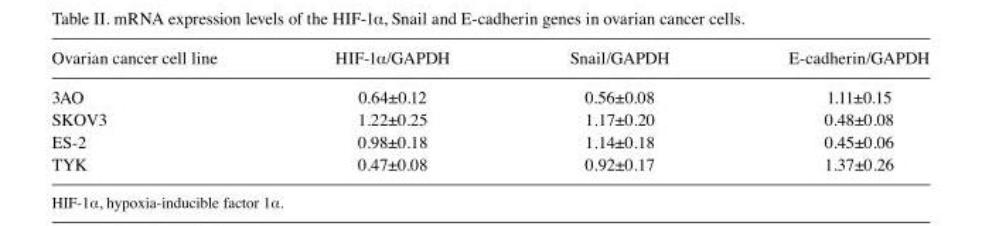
<table><thead><tr><td>Ovarian cancer cell line</td><td>HIF-1α/GAPDH</td><td>Snail/GAPDH</td><td>E-cadherin/GAPDH</td></tr></thead><tbody><tr><td>3AO</td><td>0.64±0.12</td><td>0.56±0.08</td><td>1.11±0.15</td></tr><tr><td>SKOV3</td><td>1.22±0.25</td><td>1.17±0.20</td><td>0.48±0.08</td></tr><tr><td>ES-2</td><td>0.98±0.18</td><td>1.14±0.18</td><td>0.45±0.06</td></tr><tr><td>TYK</td><td>0.47±0.08</td><td>0.92±0.17</td><td>1.37±0.26</td></tr></tbody></table>